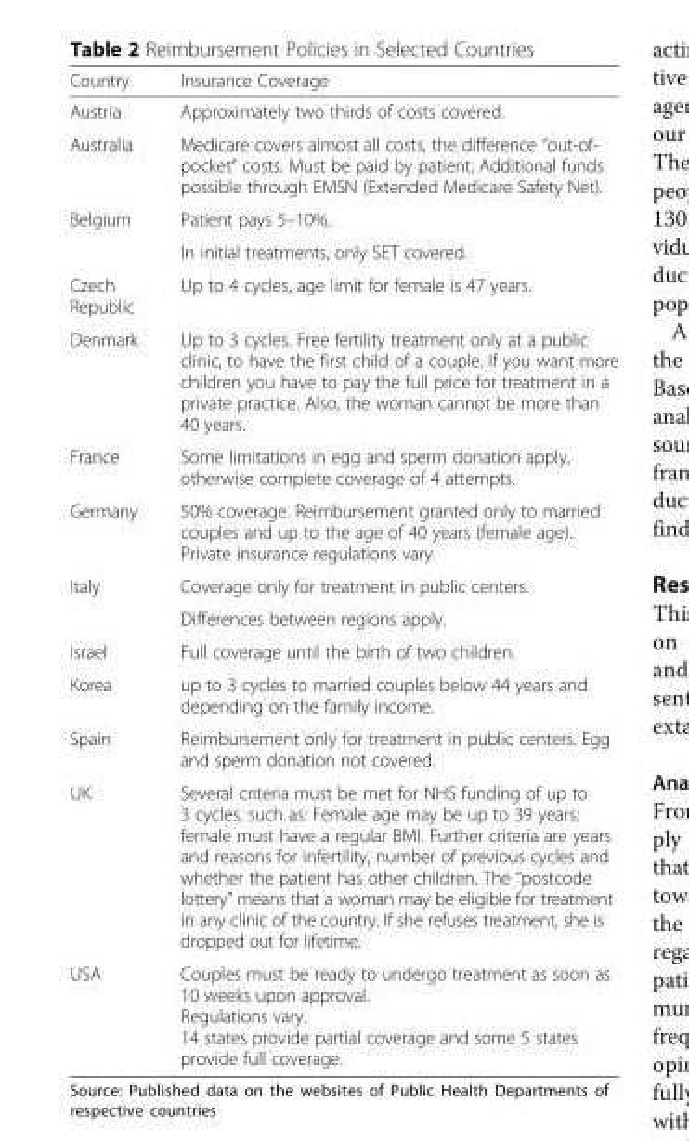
<table><thead><tr><td>Country</td><td>Insurance Coverage</td></tr></thead><tbody><tr><td>Austria</td><td>Approximately two thirds of costs covered.</td></tr><tr><td>Australia</td><td>Medicare covers almost all costs, the difference “out-of- pocket” costs. Must be paid by patient. Additional funds possible through EMSN (Extended Medicare Safety Net).</td></tr><tr><td rowspan="2">Belgium</td><td>Patient pays 5–10%.</td></tr><tr><td>In initial treatments, only SET covered.</td></tr><tr><td>Czech Republic</td><td>Up to 4 cycles, age limit for female is 47 years.</td></tr><tr><td>Denmark</td><td>Up to 3 cycles. Free fertility treatment only at a public clinic, to have the first child of a couple. If you want more children you have to pay the full price for treatment in a private practice. Also, the woman cannot be more than 40 years.</td></tr><tr><td>France</td><td>Some limitations in egg and sperm donation apply, otherwise complete coverage of 4 attempts.</td></tr><tr><td>Germany</td><td>50% coverage. Reimbursement granted only to married couples and up to the age of 40 years (female age). Private insurance regulations vary.</td></tr><tr><td rowspan="2">Italy</td><td>Coverage only for treatment in public centers.</td></tr><tr><td>Differences between regions apply.</td></tr><tr><td>Israel</td><td>Full coverage until the birth of two children.</td></tr><tr><td>Korea</td><td>up to 3 cycles to married couples below 44 years and depending on the family income.</td></tr><tr><td>Spain</td><td>Reimbursement only for treatment in public centers. Egg and sperm donation not covered.</td></tr><tr><td>UK</td><td>Several criteria must be met for NHS funding of up to 3 cycles, such as: Female age may be up to 39 years; female must have a regular BMI. Further criteria are years and reasons for infertility, number of previous cycles and whether the patient has other children. The “postcode lottery” means that a woman may be eligible for treatment in any clinic of the country. If she refuses treatment, she is dropped out for lifetime.</td></tr><tr><td>USA</td><td>Couples must be ready to undergo treatment as soon as 10 weeks upon approval. Regulations vary. 14 states provide partial coverage and some 5 states provide full coverage.</td></tr></tbody></table>